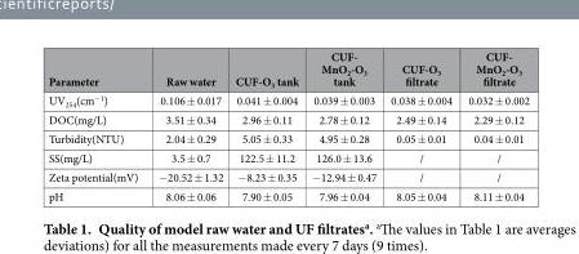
<table><thead><tr><td>Parameter</td><td>Raw water</td><td>CUF-O<sub>3</sub> tank</td><td>CUF- MnO<sub>2</sub>-O<sub>3</sub> tank</td><td>CUF-O<sub>3</sub> filtrate</td><td>CUF- MnO<sub>2</sub>-O<sub>3</sub> filtrate</td></tr></thead><tbody><tr><td>UV<sub>254</sub>(cm<sup>−1</sup>)</td><td>0.106 ± 0.017</td><td>0.041 ± 0.004</td><td>0.039 ± 0.003</td><td>0.038 ± 0.004</td><td>0.032 ± 0.002</td></tr><tr><td>DOC(mg/L)</td><td>3.51 ± 0.34</td><td>2.96 ± 0.11</td><td>2.78 ± 0.12</td><td>2.49 ± 0.14</td><td>2.29 ± 0.12</td></tr><tr><td>Turbidity(NTU)</td><td>2.04 ± 0.29</td><td>5.05 ± 0.33</td><td>4.95 ± 0.28</td><td>0.05 ± 0.01</td><td>0.04 ± 0.01</td></tr><tr><td>SS(mg/L)</td><td>3.5 ± 0.7</td><td>122.5 ± 11.2</td><td>126.0 ± 13.6</td><td>/</td><td>/</td></tr><tr><td>Zeta potential(mV)</td><td>− 20.52 ± 1.32</td><td>− 8.23 ± 0.35</td><td>− 12.94 ± 0.47</td><td>/</td><td>/</td></tr><tr><td>pH</td><td>8.06 ± 0.06</td><td>7.90 ± 0.05</td><td>7.96 ± 0.04</td><td>8.05 ± 0.04</td><td>8.11 ± 0.04</td></tr></tbody></table>